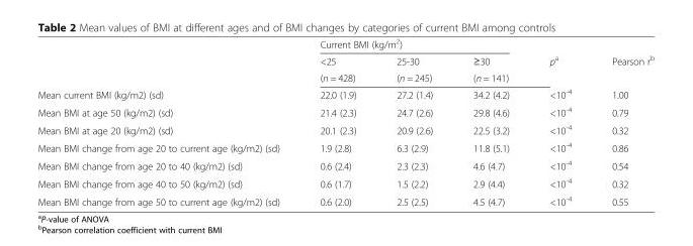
<table><thead><tr><td rowspan="3"></td><td colspan="3">Current BMI (kg/m<sup>2</sup>)</td><td rowspan="3">p<sup>a</sup></td><td rowspan="3">Pearson r<sup>b</sup></td></tr><tr><td rowspan="2">&lt;25 (n = 428)</td><td rowspan="2">25-30 (n = 245)</td><td rowspan="2">≥30 (n = 141)</td></tr><tr></tr></thead><tbody><tr><td>Mean current BMI (kg/m2) (sd)</td><td>22.0 (1.9)</td><td>27.2 (1.4)</td><td>34.2 (4.2)</td><td>&lt;10<sup>-4</sup></td><td>1.00</td></tr><tr><td>Mean BMI at age 50 (kg/m2) (sd)</td><td>21.4 (2.3)</td><td>24.7 (2.6)</td><td>29.8 (4.6)</td><td>&lt;10<sup>-4</sup></td><td>0.79</td></tr><tr><td>Mean BMI at age 20 (kg/m2) (sd)</td><td>20.1 (2.3)</td><td>20.9 (2.6)</td><td>22.5 (3.2)</td><td>&lt;10<sup>-4</sup></td><td>0.32</td></tr><tr><td>Mean BMI change from age 20 to current age (kg/m2) (sd)</td><td>1.9 (2.8)</td><td>6.3 (2.9)</td><td>11.8 (5.1)</td><td>&lt;10<sup>-4</sup></td><td>0.86</td></tr><tr><td>Mean BMI change from age 20 to 40 (kg/m2) (sd)</td><td>0.6 (2.4)</td><td>2.3 (2.3)</td><td>4.6 (4.7)</td><td>&lt;10<sup>-4</sup></td><td>0.54</td></tr><tr><td>Mean BMI change from age 40 to 50 (kg/m2) (sd)</td><td>0.6 (1.7)</td><td>1.5 (2.2)</td><td>2.9 (4.4)</td><td>&lt;10<sup>-4</sup></td><td>0.32</td></tr><tr><td>Mean BMI change from age 50 to current age (kg/m2) (sd)</td><td>0.6 (2.0)</td><td>2.5 (2.5)</td><td>4.5 (4.7)</td><td>&lt;10<sup>-4</sup></td><td>0.55</td></tr></tbody></table>